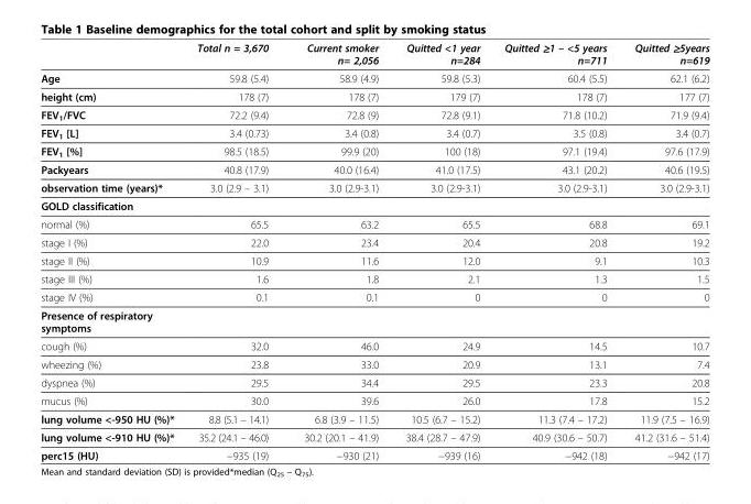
<table><thead><tr><td></td><td>Total n = 3,670</td><td>Current smoker n= 2,056</td><td>Quitted &lt;1 year n=284</td><td>Quitted ≥1 – &lt;5 years n=711</td><td>Quitted ≥5years n=619</td></tr></thead><tbody><tr><td>Age</td><td>59.8 (5.4)</td><td>58.9 (4.9)</td><td>59.8 (5.3)</td><td>60.4 (5.5)</td><td>62.1 (6.2)</td></tr><tr><td>height (cm)</td><td>178 (7)</td><td>178 (7)</td><td>179 (7)</td><td>178 (7)</td><td>177 (7)</td></tr><tr><td>FEV<sub>1</sub>/FVC</td><td>72.2 (9.4)</td><td>72.8 (9)</td><td>72.8 (9.1)</td><td>71.8 (10.2)</td><td>71.9 (9.4)</td></tr><tr><td>FEV<sub>1</sub> [L]</td><td>3.4 (0.73)</td><td>3.4 (0.8)</td><td>3.4 (0.7)</td><td>3.5 (0.8)</td><td>3.4 (0.7)</td></tr><tr><td>FEV<sub>1</sub> [%]</td><td>98.5 (18.5)</td><td>99.9 (20)</td><td>100 (18)</td><td>97.1 (19.4)</td><td>97.6 (17.9)</td></tr><tr><td>Packyears</td><td>40.8 (17.9)</td><td>40.0 (16.4)</td><td>41.0 (17.5)</td><td>43.1 (20.2)</td><td>40.6 (19.5)</td></tr><tr><td>observation time (years)*</td><td>3.0 (2.9 – 3.1)</td><td>3.0 (2.9-3.1)</td><td>3.0 (2.9-3.1)</td><td>3.0 (2.9-3.1)</td><td>3.0 (2.9-3.1)</td></tr><tr><td colspan="6">GOLD classification</td></tr><tr><td>normal (%)</td><td>65.5</td><td>63.2</td><td>65.5</td><td>68.8</td><td>69.1</td></tr><tr><td>stage I (%)</td><td>22.0</td><td>23.4</td><td>20.4</td><td>20.8</td><td>19.2</td></tr><tr><td>stage II (%)</td><td>10.9</td><td>11.6</td><td>12.0</td><td>9.1</td><td>10.3</td></tr><tr><td>stage III (%)</td><td>1.6</td><td>1.8</td><td>2.1</td><td>1.3</td><td>1.5</td></tr><tr><td>stage IV (%)</td><td>0.1</td><td>0.1</td><td>0</td><td>0</td><td>0</td></tr><tr><td colspan="6">Presence of respiratory symptoms</td></tr><tr><td>cough (%)</td><td>32.0</td><td>46.0</td><td>24.9</td><td>14.5</td><td>10.7</td></tr><tr><td>wheezing (%)</td><td>23.8</td><td>33.0</td><td>20.9</td><td>13.1</td><td>7.4</td></tr><tr><td>dyspnea (%)</td><td>29.5</td><td>34.4</td><td>29.5</td><td>23.3</td><td>20.8</td></tr><tr><td>mucus (%)</td><td>30.0</td><td>39.6</td><td>26.0</td><td>17.8</td><td>15.2</td></tr><tr><td>lung volume &lt;-950 HU (%)*</td><td>8.8 (5.1 – 14.1)</td><td>6.8 (3.9 – 11.5)</td><td>10.5 (6.7 – 15.2)</td><td>11.3 (7.4 – 17.2)</td><td>11.9 (7.5 – 16.9)</td></tr><tr><td>lung volume &lt;-910 HU (%)*</td><td>35.2 (24.1 – 46.0)</td><td>30.2 (20.1 – 41.9)</td><td>38.4 (28.7 – 47.9)</td><td>40.9 (30.6 – 50.7)</td><td>41.2 (31.6 – 51.4)</td></tr><tr><td>perc15 (HU)</td><td>−935 (19)</td><td>−930 (21)</td><td>−939 (16)</td><td>−942 (18)</td><td>−942 (17)</td></tr></tbody></table>